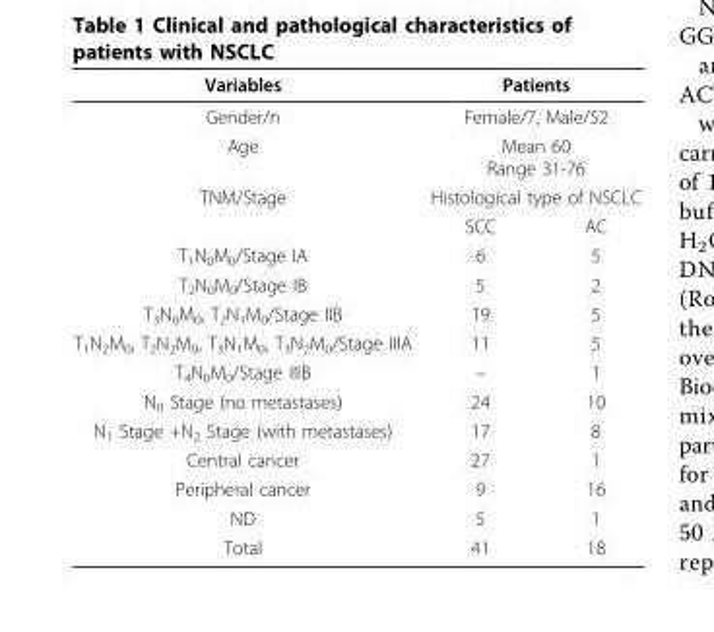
<table><thead><tr><td>Variables</td><td colspan="2">Patients</td></tr></thead><tbody><tr><td>Gender/n</td><td colspan="2">Female/7, Male/52</td></tr><tr><td>Age</td><td colspan="2">Mean 60 Range 31-76</td></tr><tr><td rowspan="2">TNM/Stage</td><td colspan="2">Histological type of NSCLC</td></tr><tr><td>SCC</td><td>AC</td></tr><tr><td>T<sub>1</sub>N<sub>0</sub>M<sub>0</sub>/Stage IA</td><td>6</td><td>5</td></tr><tr><td>T<sub>2</sub>N<sub>0</sub>M<sub>0</sub>/Stage IB</td><td>5</td><td>2</td></tr><tr><td>T<sub>3</sub>N<sub>0</sub>M<sub>0</sub>, T<sub>2</sub>N<sub>1</sub>M<sub>0</sub>/Stage IIB</td><td>19</td><td>5</td></tr><tr><td>T<sub>1</sub>N<sub>2</sub>M<sub>0</sub>, T<sub>2</sub>N<sub>2</sub>M<sub>0</sub>, T<sub>3</sub>N<sub>1</sub>M<sub>0</sub>, T<sub>3</sub>N<sub>2</sub>M<sub>0</sub>/Stage IIIA</td><td>11</td><td>5</td></tr><tr><td>T<sub>4</sub>N<sub>0</sub>M<sub>0</sub>/Stage IIIB</td><td>–</td><td>1</td></tr><tr><td>N<sub>0</sub> Stage (no metastases)</td><td>24</td><td>10</td></tr><tr><td>N<sub>1</sub> Stage +N<sub>2</sub> Stage (with metastases)</td><td>17</td><td>8</td></tr><tr><td>Central cancer</td><td>27</td><td>1</td></tr><tr><td>Peripheral cancer</td><td>9</td><td>16</td></tr><tr><td>ND</td><td>5</td><td>1</td></tr><tr><td>Total</td><td>41</td><td>18</td></tr></tbody></table>